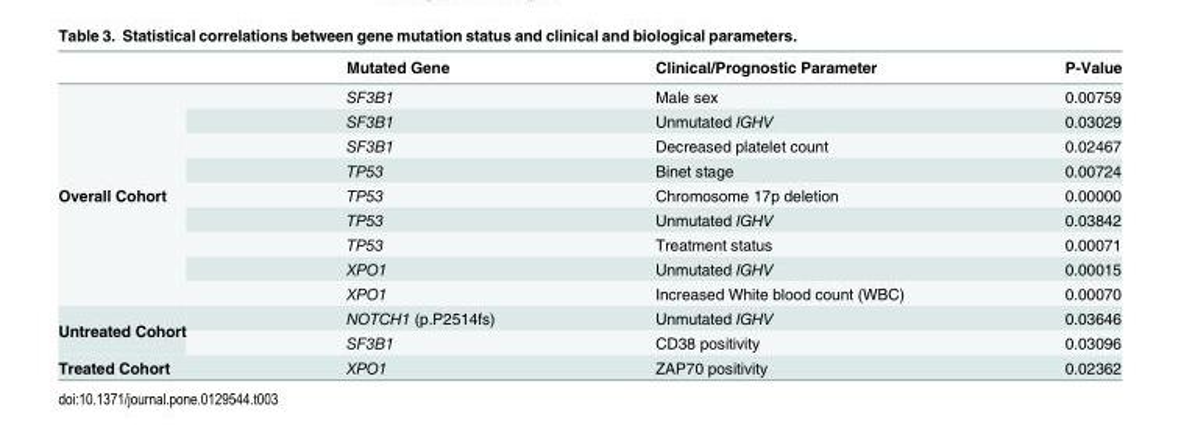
<table><thead><tr><td></td><td>Mutated Gene</td><td>Clinical/Prognostic Parameter</td><td>P-Value</td></tr></thead><tbody><tr><td rowspan="9">Overall Cohort</td><td>SF3B1</td><td>Male sex</td><td>0.00759</td></tr><tr><td>SF3B1</td><td>Unmutated IGHV</td><td>0.03029</td></tr><tr><td>SF3B1</td><td>Decreased platelet count</td><td>0.02467</td></tr><tr><td>TP53</td><td>Binet stage</td><td>0.00724</td></tr><tr><td>TP53</td><td>Chromosome 17p deletion</td><td>0.00000</td></tr><tr><td>TP53</td><td>Unmutated IGHV</td><td>0.03842</td></tr><tr><td>TP53</td><td>Treatment status</td><td>0.00071</td></tr><tr><td>XPO1</td><td>Unmutated IGHV</td><td>0.00015</td></tr><tr><td>XPO1</td><td>Increased White blood count (WBC)</td><td>0.00070</td></tr><tr><td rowspan="2">Untreated Cohort</td><td>NOTCH1 (p.P2514fs)</td><td>Unmutated IGHV</td><td>0.03646</td></tr><tr><td>SF3B1</td><td>CD38 positivity</td><td>0.03096</td></tr><tr><td>Treated Cohort</td><td>XPO1</td><td>ZAP70 positivity</td><td>0.02362</td></tr></tbody></table>